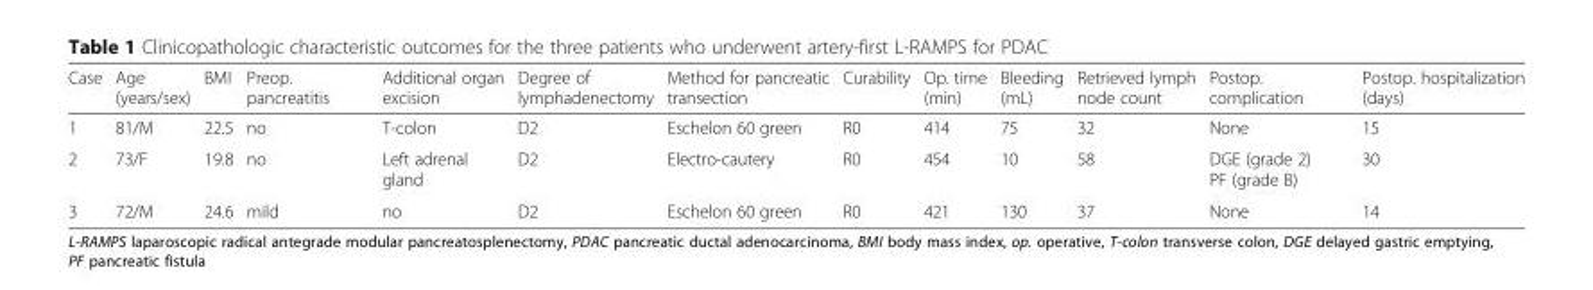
<table><thead><tr><td>Case</td><td>Age (years/sex)</td><td>BMI</td><td>Preop. pancreatitis</td><td>Additional organ excision</td><td>Degree of lymphadenectomy</td><td>Method for pancreatic transection</td><td>Curability</td><td>Op. time (min)</td><td>Bleeding (mL)</td><td>Retrieved lymph node count</td><td>Postop. complication</td><td>Postop. hospitalization (days)</td></tr></thead><tbody><tr><td>1</td><td>81/M</td><td>22.5</td><td>no</td><td>T-colon</td><td>D2</td><td>Eschelon 60 green</td><td>R0</td><td>414</td><td>75</td><td>32</td><td>None</td><td>15</td></tr><tr><td>2</td><td>73/F</td><td>19.8</td><td>no</td><td>Left adrenal gland</td><td>D2</td><td>Electro-cautery</td><td>R0</td><td>454</td><td>10</td><td>58</td><td>DGE (grade 2) PF (grade B)</td><td>30</td></tr><tr><td>3</td><td>72/M</td><td>24.6</td><td>mild</td><td>no</td><td>D2</td><td>Eschelon 60 green</td><td>R0</td><td>421</td><td>130</td><td>37</td><td>None</td><td>14</td></tr></tbody></table>